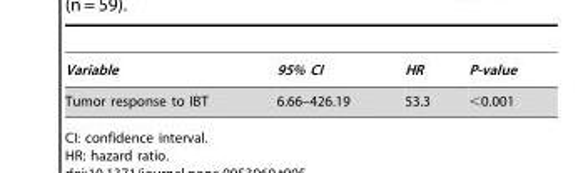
<table><thead><tr><td>Variable</td><td>95% CI</td><td>HR</td><td>P-value</td></tr></thead><tbody><tr><td>Tumor response to IBT</td><td>6.66–426.19</td><td>53.3</td><td>&lt;0.001</td></tr></tbody></table>